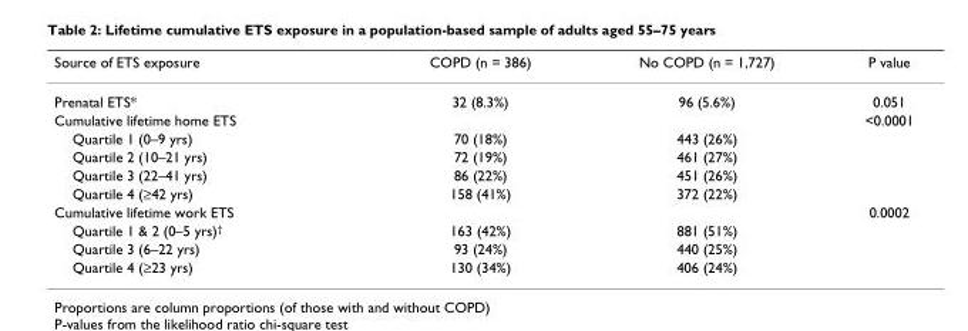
<table><thead><tr><td>Source of ETS exposure</td><td>COPD (n = 386)</td><td>No COPD (n = 1,727)</td><td>P value</td></tr></thead><tbody><tr><td>Prenatal ETS*</td><td>32 (8.3%)</td><td>96 (5.6%)</td><td>0.051</td></tr><tr><td>Cumulative lifetime home ETS</td><td></td><td></td><td>&lt;0.0001</td></tr><tr><td>Quartile 1 (0–9 yrs)</td><td>70 (18%)</td><td>443 (26%)</td><td></td></tr><tr><td>Quartile 2 (10–21 yrs)</td><td>72 (19%)</td><td>461 (27%)</td><td></td></tr><tr><td>Quartile 3 (22–41 yrs)</td><td>86 (22%)</td><td>451 (26%)</td><td></td></tr><tr><td>Quartile 4 (≥42 yrs)</td><td>158 (41%)</td><td>372 (22%)</td><td></td></tr><tr><td>Cumulative lifetime work ETS</td><td></td><td></td><td>0.0002</td></tr><tr><td>Quartile 1 &amp; 2 (0–5 yrs)<sup>†</sup></td><td>163 (42%)</td><td>881 (51%)</td><td></td></tr><tr><td>Quartile 3 (6–22 yrs)</td><td>93 (24%)</td><td>440 (25%)</td><td></td></tr><tr><td>Quartile 4 (≥23 yrs)</td><td>130 (34%)</td><td>406 (24%)</td><td></td></tr></tbody></table>